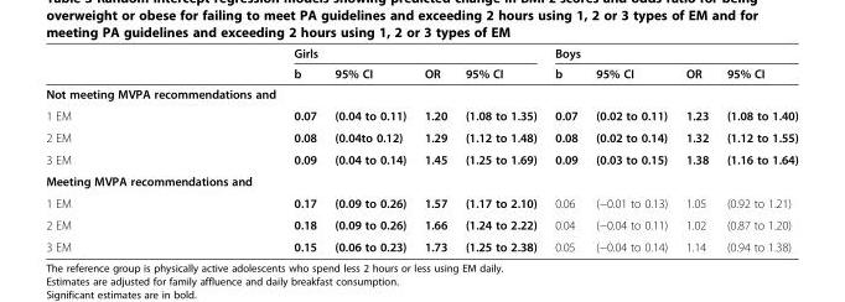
<table><thead><tr><td rowspan="2"></td><td colspan="4">Girls</td><td colspan="4">Boys</td></tr><tr><td>b</td><td>95% CI</td><td>OR</td><td>95% CI</td><td>b</td><td>95% CI</td><td>OR</td><td>95% CI</td></tr></thead><tbody><tr><td colspan="9">Not meeting MVPA recommendations and</td></tr><tr><td>1 EM</td><td>0.07</td><td>(0.04 to 0.11)</td><td>1.20</td><td>(1.08 to 1.35)</td><td>0.07</td><td>(0.02 to 0.11)</td><td>1.23</td><td>(1.08 to 1.40)</td></tr><tr><td>2 EM</td><td>0.08</td><td>(0.04to 0.12)</td><td>1.29</td><td>(1.12 to 1.48)</td><td>0.08</td><td>(0.02 to 0.14)</td><td>1.32</td><td>(1.12 to 1.55)</td></tr><tr><td>3 EM</td><td>0.09</td><td>(0.04 to 0.14)</td><td>1.45</td><td>(1.25 to 1.69)</td><td>0.09</td><td>(0.03 to 0.15)</td><td>1.38</td><td>(1.16 to 1.64)</td></tr><tr><td colspan="9">Meeting MVPA recommendations and</td></tr><tr><td>1 EM</td><td>0.17</td><td>(0.09 to 0.26)</td><td>1.57</td><td>(1.17 to 2.10)</td><td>0.06</td><td>(−0.01 to 0.13)</td><td>1.05</td><td>(0.92 to 1.21)</td></tr><tr><td>2 EM</td><td>0.18</td><td>(0.09 to 0.26)</td><td>1.66</td><td>(1.24 to 2.22)</td><td>0.04</td><td>(−0.04 to 0.11)</td><td>1.02</td><td>(0.87 to 1.20)</td></tr><tr><td>3 EM</td><td>0.15</td><td>(0.06 to 0.23)</td><td>1.73</td><td>(1.25 to 2.38)</td><td>0.05</td><td>(−0.04 to 0.14)</td><td>1.14</td><td>(0.94 to 1.38)</td></tr></tbody></table>